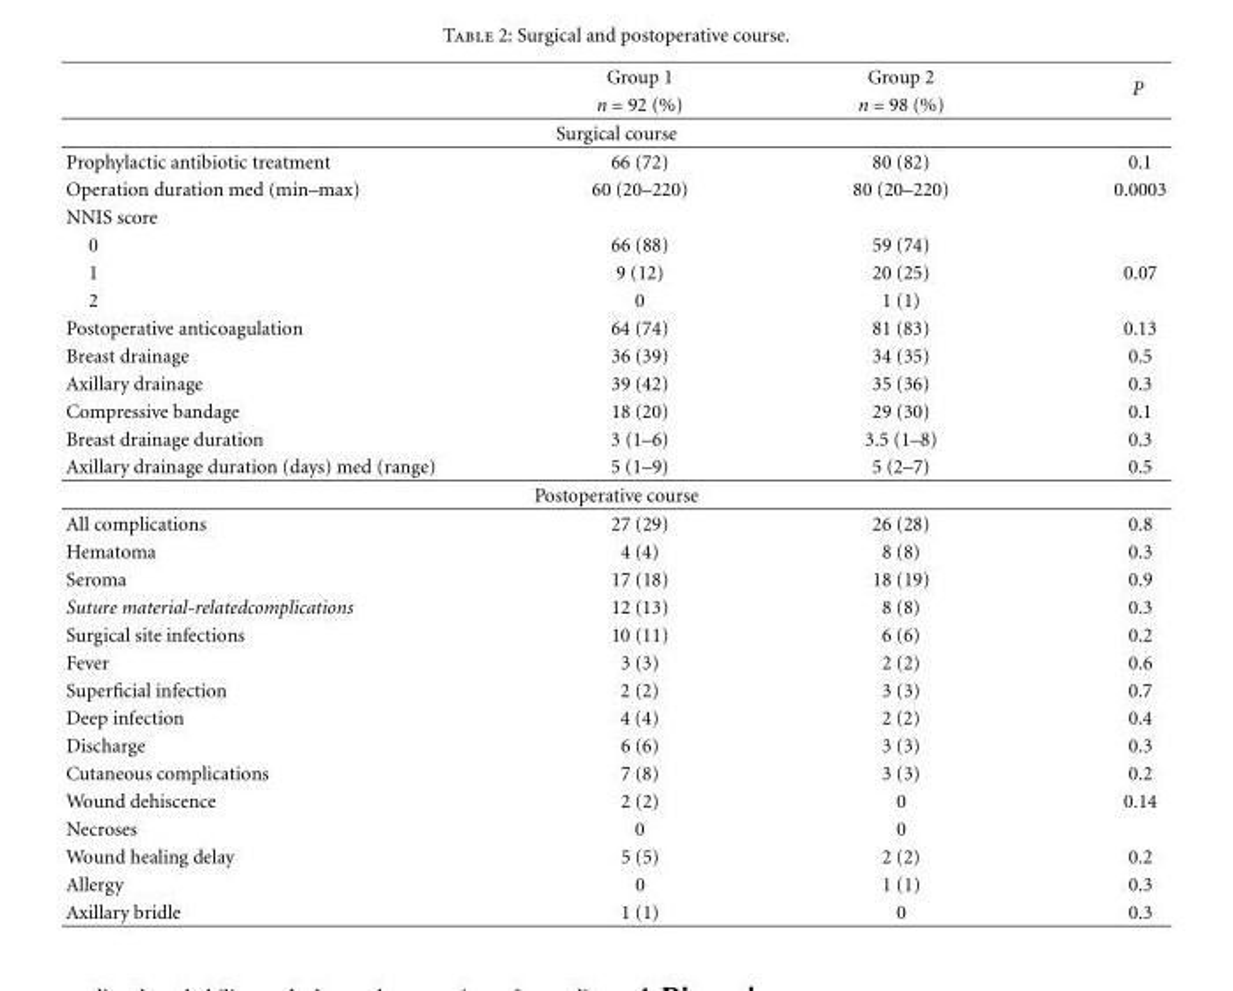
<table><thead><tr><td rowspan="2"></td><td rowspan="2">Group 1 n = 92 (%)</td><td rowspan="2">Group 2 n = 98 (%)</td><td rowspan="2">P</td></tr><tr></tr></thead><tbody><tr><td colspan="4">Surgical course</td></tr><tr><td>Prophylactic antibiotic treatment</td><td>66 (72)</td><td>80 (82)</td><td>0.1</td></tr><tr><td>Operation duration med (min–max)</td><td>60 (20–220)</td><td>80 (20–220)</td><td>0.0003</td></tr><tr><td colspan="4">NNIS score</td></tr><tr><td>0</td><td>66 (88)</td><td>59 (74)</td><td></td></tr><tr><td>1</td><td>9 (12)</td><td>20 (25)</td><td>0.07</td></tr><tr><td>2</td><td>0</td><td>1 (1)</td><td></td></tr><tr><td>Postoperative anticoagulation</td><td>64 (74)</td><td>81 (83)</td><td>0.13</td></tr><tr><td>Breast drainage</td><td>36 (39)</td><td>34 (35)</td><td>0.5</td></tr><tr><td>Axillary drainage</td><td>39 (42)</td><td>35 (36)</td><td>0.3</td></tr><tr><td>Compressive bandage</td><td>18 (20)</td><td>29 (30)</td><td>0.1</td></tr><tr><td>Breast drainage duration</td><td>3 (1–6)</td><td>3.5 (1–8)</td><td>0.3</td></tr><tr><td>Axillary drainage duration (days) med (range)</td><td>5 (1–9)</td><td>5 (2–7)</td><td>0.5</td></tr><tr><td colspan="4">Postoperative course</td></tr><tr><td>All complications</td><td>27 (29)</td><td>26 (28)</td><td>0.8</td></tr><tr><td>Hematoma</td><td>4 (4)</td><td>8 (8)</td><td>0.3</td></tr><tr><td>Seroma</td><td>17 (18)</td><td>18 (19)</td><td>0.9</td></tr><tr><td>Suture material-relatedcomplications</td><td>12 (13)</td><td>8 (8)</td><td>0.3</td></tr><tr><td>Surgical site infections</td><td>10 (11)</td><td>6 (6)</td><td>0.2</td></tr><tr><td>Fever</td><td>3 (3)</td><td>2 (2)</td><td>0.6</td></tr><tr><td>Superficial infection</td><td>2 (2)</td><td>3 (3)</td><td>0.7</td></tr><tr><td>Deep infection</td><td>4 (4)</td><td>2 (2)</td><td>0.4</td></tr><tr><td>Discharge</td><td>6 (6)</td><td>3 (3)</td><td>0.3</td></tr><tr><td>Cutaneous complications</td><td>7 (8)</td><td>3 (3)</td><td>0.2</td></tr><tr><td>Wound dehiscence</td><td>2 (2)</td><td>0</td><td>0.14</td></tr><tr><td>Necroses</td><td>0</td><td>0</td><td></td></tr><tr><td>Wound healing delay</td><td>5 (5)</td><td>2 (2)</td><td>0.2</td></tr><tr><td>Allergy</td><td>0</td><td>1 (1)</td><td>0.3</td></tr><tr><td>Axillary bridle</td><td>1 (1)</td><td>0</td><td>0.3</td></tr></tbody></table>